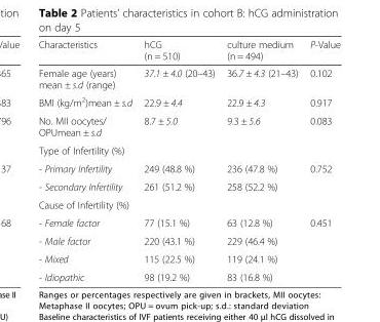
<table><thead><tr><td>Characteristics</td><td>hCG (n = 510)</td><td>culture medium (n = 494)</td><td>P-Value</td></tr></thead><tbody><tr><td>Female age (years) mean ± s.d (range)</td><td>37.1 ± 4.0 (20–43)</td><td>36.7 ± 4.3 (21–43)</td><td>0.102</td></tr><tr><td>BMI (kg/m<sup>2</sup>)mean ± s.d</td><td>22.9 ± 4.4</td><td>22.9 ± 4.3</td><td>0.917</td></tr><tr><td>No. MII oocytes/ OPUmean ± s.d</td><td>8.7 ± 5.0</td><td>9.3 ± 5.6</td><td>0.083</td></tr><tr><td colspan="4">Type of Infertility (%)</td></tr><tr><td>- Primary Infertility</td><td>249 (48.8 %)</td><td>236 (47.8 %)</td><td rowspan="2">0.752</td></tr><tr><td>- Secondary Infertility</td><td>261 (51.2 %)</td><td>258 (52.2 %)</td></tr><tr><td colspan="4">Cause of Infertility (%)</td></tr><tr><td>- Female factor</td><td>77 (15.1 %)</td><td>63 (12.8 %)</td><td rowspan="4">0.451</td></tr><tr><td>- Male factor</td><td>220 (43.1 %)</td><td>229 (46.4 %)</td></tr><tr><td>- Mixed</td><td>115 (22.5 %)</td><td>119 (24.1 %)</td></tr><tr><td>- Idiopathic</td><td>98 (19.2 %)</td><td>83 (16.8 %)</td></tr></tbody></table>